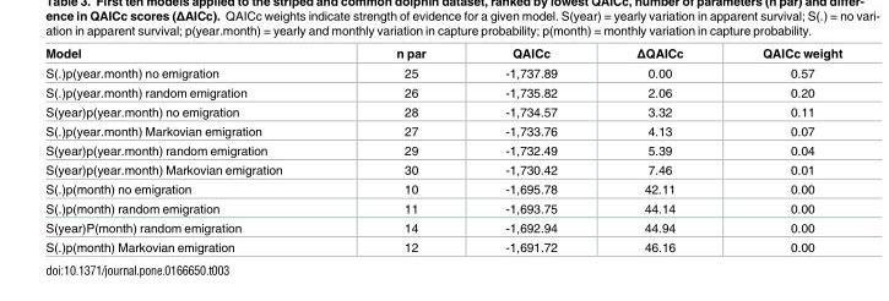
<table><thead><tr><td>Model</td><td>n par</td><td>QAICc</td><td>ΔQAICc</td><td>QAICc weight</td></tr></thead><tbody><tr><td>S(.)p(year.month) no emigration</td><td>25</td><td>-1,737.89</td><td>0.00</td><td>0.57</td></tr><tr><td>S(.)p(year.month) random emigration</td><td>26</td><td>-1,735.82</td><td>2.06</td><td>0.20</td></tr><tr><td>S(year)p(year.month) no emigration</td><td>28</td><td>-1,734.57</td><td>3.32</td><td>0.11</td></tr><tr><td>S(.)p(year.month) Markovian emigration</td><td>27</td><td>-1,733.76</td><td>4.13</td><td>0.07</td></tr><tr><td>S(year)p(year.month) random emigration</td><td>29</td><td>-1,732.49</td><td>5.39</td><td>0.04</td></tr><tr><td>S(year)p(year.month) Markovian emigration</td><td>30</td><td>-1,730.42</td><td>7.46</td><td>0.01</td></tr><tr><td>S(.)p(month) no emigration</td><td>10</td><td>-1,695.78</td><td>42.11</td><td>0.00</td></tr><tr><td>S(.)p(month) random emigration</td><td>11</td><td>-1,693.75</td><td>44.14</td><td>0.00</td></tr><tr><td>S(year)P(month) random emigration</td><td>14</td><td>-1,692.94</td><td>44.94</td><td>0.00</td></tr><tr><td>S(.)p(month) Markovian emigration</td><td>12</td><td>-1,691.72</td><td>46.16</td><td>0.00</td></tr></tbody></table>